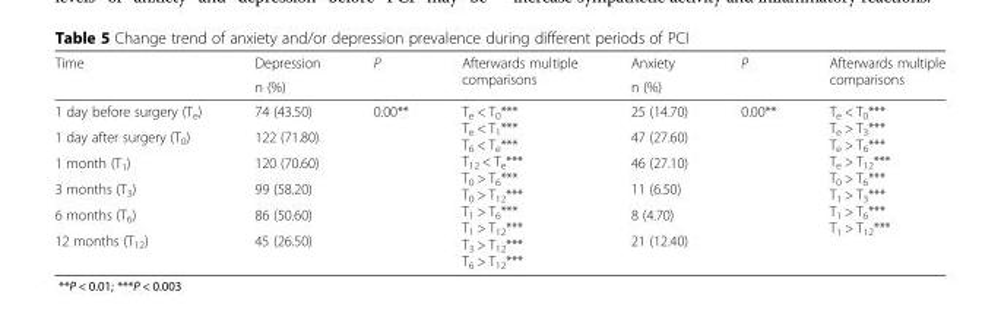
<table><thead><tr><td rowspan="2">Time</td><td rowspan="2">Depression n (%)</td><td rowspan="2">P</td><td rowspan="2">Afterwards multiple comparisons</td><td rowspan="2">Anxiety n (%)</td><td rowspan="2">P</td><td rowspan="2">Afterwards multiple comparisons</td></tr><tr></tr></thead><tbody><tr><td>1 day before surgery (T<sub>e</sub>)</td><td>74 (43.50)</td><td rowspan="6">0.00**</td><td rowspan="6">Te &lt; T0*** Te &lt; T1*** T6 &lt; Te*** T12 &lt; Te*** T0 &gt; T6*** T0 &gt; T12*** T1 &gt; T6*** T1 &gt; T12*** T3 &gt; T12*** T6 &gt; T12***</td><td>25 (14.70)</td><td rowspan="6">0.00**</td><td rowspan="6">T<sub>e</sub> &lt; T<sub>0</sub>*** T<sub>e</sub> &gt; T<sub>3</sub>*** T<sub>e</sub> &gt; T<sub>6</sub>*** T<sub>e</sub> &gt; T<sub>12</sub>*** T<sub>0</sub> &gt; T<sub>6</sub>*** T<sub>1</sub> &gt; T<sub>3</sub>*** T<sub>1</sub> &gt; T<sub>6</sub>*** T<sub>1</sub> &gt; T<sub>12</sub>***</td></tr><tr><td>1 day after surgery (T<sub>0</sub>)</td><td>122 (71.80)</td><td>47 (27.60)</td></tr><tr><td>1 month (T<sub>1</sub>)</td><td>120 (70.60)</td><td>46 (27.10)</td></tr><tr><td>3 months (T<sub>3</sub>)</td><td>99 (58.20)</td><td>11 (6.50)</td></tr><tr><td>6 months (T<sub>6</sub>)</td><td>86 (50.60)</td><td>8 (4.70)</td></tr><tr><td>12 months (T<sub>12</sub>)</td><td>45 (26.50)</td><td>21 (12.40)</td></tr></tbody></table>